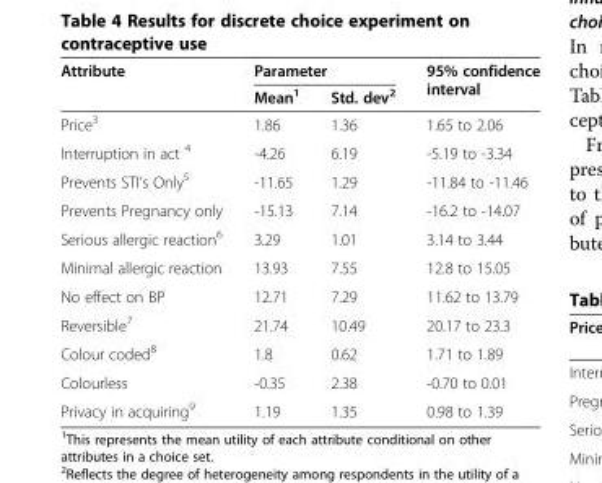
<table><thead><tr><td rowspan="2">Attribute</td><td colspan="2">Parameter</td><td rowspan="2">95% confidence interval</td></tr><tr><td>Mean<sup>1</sup></td><td>Std. dev<sup>2</sup></td></tr></thead><tbody><tr><td>Price<sup>3</sup></td><td>1.86</td><td>1.36</td><td>1.65 to 2.06</td></tr><tr><td>Interruption in act <sup>4</sup></td><td>-4.26</td><td>6.19</td><td>-5.19 to -3.34</td></tr><tr><td>Prevents STI’s Only<sup>5</sup></td><td>-11.65</td><td>1.29</td><td>-11.84 to -11.46</td></tr><tr><td>Prevents Pregnancy only</td><td>-15.13</td><td>7.14</td><td>-16.2 to -14.07</td></tr><tr><td>Serious allergic reaction<sup>6</sup></td><td>3.29</td><td>1.01</td><td>3.14 to 3.44</td></tr><tr><td>Minimal allergic reaction</td><td>13.93</td><td>7.55</td><td>12.8 to 15.05</td></tr><tr><td>No effect on BP</td><td>12.71</td><td>7.29</td><td>11.62 to 13.79</td></tr><tr><td>Reversible<sup>7</sup></td><td>21.74</td><td>10.49</td><td>20.17 to 23.3</td></tr><tr><td>Colour coded<sup>8</sup></td><td>1.8</td><td>0.62</td><td>1.71 to 1.89</td></tr><tr><td>Colourless</td><td>-0.35</td><td>2.38</td><td>-0.70 to 0.01</td></tr><tr><td>Privacy in acquiring<sup>9</sup></td><td>1.19</td><td>1.35</td><td>0.98 to 1.39</td></tr></tbody></table>